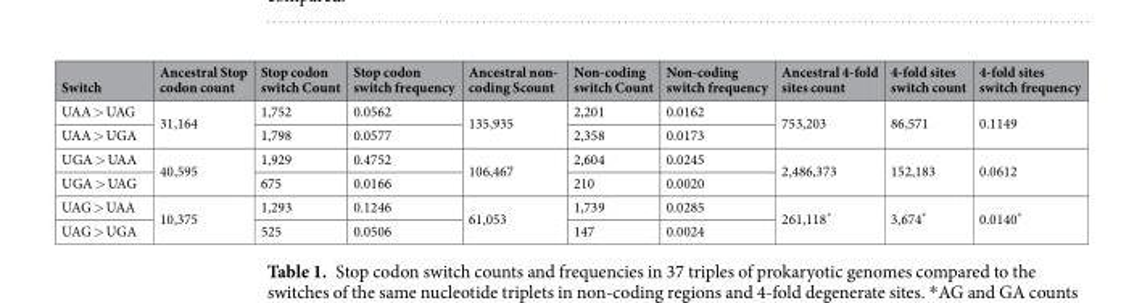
<table><thead><tr><td>Switch</td><td>Ancestral Stop codon count</td><td>Stop codon switch Count</td><td>Stop codon switch frequency</td><td>Ancestral non- coding Scount</td><td>Non-coding switch Count</td><td>Non-coding switch frequency</td><td>Ancestral 4-fold sites count</td><td>4-fold sites switch count</td><td>4-fold sites switch frequency</td></tr></thead><tbody><tr><td>UAA &gt; UAG</td><td rowspan="2">31,164</td><td>1,752</td><td>0.0562</td><td rowspan="2">135,935</td><td>2,201</td><td>0.0162</td><td rowspan="2">753,203</td><td rowspan="2">86,571</td><td rowspan="2">0.1149</td></tr><tr><td>UAA &gt; UGA</td><td>1,798</td><td>0.0577</td><td>2,358</td><td>0.0173</td></tr><tr><td>UGA &gt; UAA</td><td rowspan="2">40,595</td><td>1,929</td><td>0.4752</td><td rowspan="2">106,467</td><td>2,604</td><td>0.0245</td><td rowspan="2">2,486,373</td><td rowspan="2">152,183</td><td rowspan="2">0.0612</td></tr><tr><td>UGA &gt; UAG</td><td>675</td><td>0.0166</td><td>210</td><td>0.0020</td></tr><tr><td>UAG &gt; UAA</td><td rowspan="2">10,375</td><td>1,293</td><td>0.1246</td><td rowspan="2">61,053</td><td>1,739</td><td>0.0285</td><td rowspan="2">261,118*</td><td rowspan="2">3,674*</td><td rowspan="2">0.0140*</td></tr><tr><td>UAG &gt; UGA</td><td>525</td><td>0.0506</td><td>147</td><td>0.0024</td></tr></tbody></table>